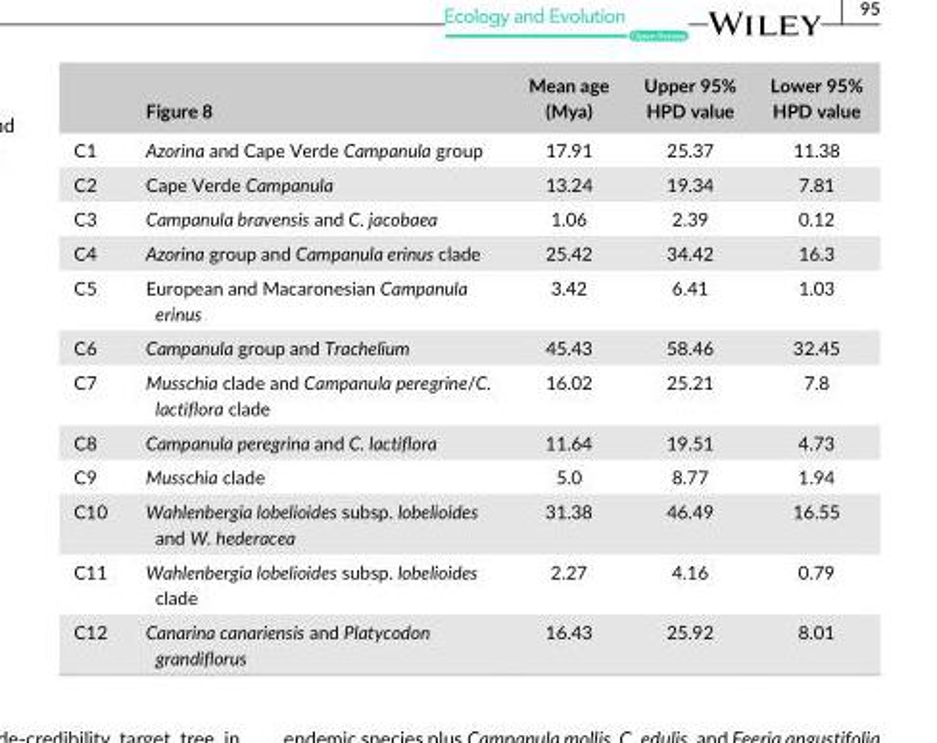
<table><thead><tr><td></td><td>Figure 8</td><td>Mean age (Mya)</td><td>Upper 95% HPD value</td><td>Lower 95% HPD value</td></tr></thead><tbody><tr><td>C1</td><td>Azorina and Cape Verde Campanula group</td><td>17.91</td><td>25.37</td><td>11.38</td></tr><tr><td>C2</td><td>Cape Verde Campanula</td><td>13.24</td><td>19.34</td><td>7.81</td></tr><tr><td>C3</td><td>Campanula bravensis and C. jacobaea</td><td>1.06</td><td>2.39</td><td>0.12</td></tr><tr><td>C4</td><td>Azorina group and Campanula erinus clade</td><td>25.42</td><td>34.42</td><td>16.3</td></tr><tr><td>C5</td><td>European and Macaronesian Campanula erinus</td><td>3.42</td><td>6.41</td><td>1.03</td></tr><tr><td>C6</td><td>Campanula group and Trachelium</td><td>45.43</td><td>58.46</td><td>32.45</td></tr><tr><td>C7</td><td>Musschia clade and Campanula peregrine/C. lactiflora clade</td><td>16.02</td><td>25.21</td><td>7.8</td></tr><tr><td>C8</td><td>Campanula peregrina and C. lactiflora</td><td>11.64</td><td>19.51</td><td>4.73</td></tr><tr><td>C9</td><td>Musschia clade</td><td>5.0</td><td>8.77</td><td>1.94</td></tr><tr><td>C10</td><td>Wahlenbergia lobelioides subsp. lobelioides and W. hederacea</td><td>31.38</td><td>46.49</td><td>16.55</td></tr><tr><td>C11</td><td>Wahlenbergia lobelioides subsp. lobelioides clade</td><td>2.27</td><td>4.16</td><td>0.79</td></tr><tr><td>C12</td><td>Canarina canariensis and Platycodon grandiflorus</td><td>16.43</td><td>25.92</td><td>8.01</td></tr></tbody></table>